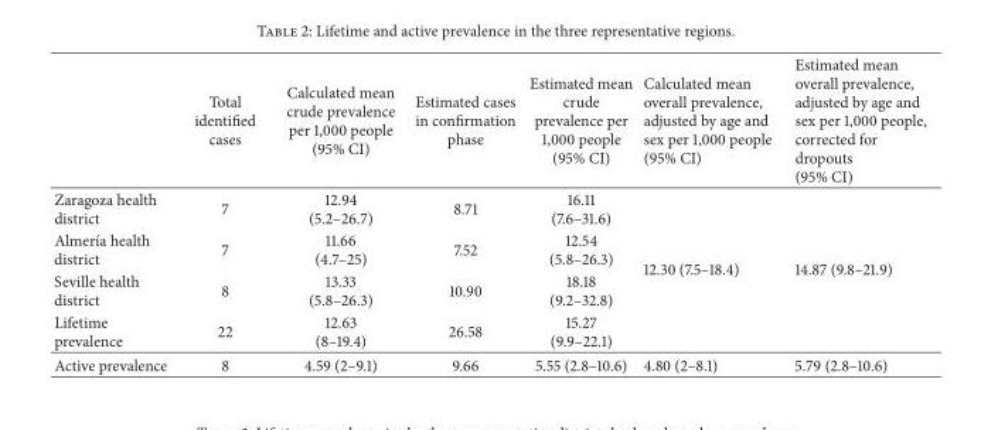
<table><thead><tr><td></td><td>Total identified cases</td><td>Calculated mean crude prevalence per 1,000 people (95% CI)</td><td>Estimated cases in confirmation phase</td><td>Estimated mean crude prevalence per 1,000 people (95% CI)</td><td>Calculated mean overall prevalence, adjusted by age and sex per 1,000 people (95% CI)</td><td>Estimated mean overall prevalence, adjusted by age and sex per 1,000 people, corrected for dropouts (95% CI)</td></tr></thead><tbody><tr><td>Zaragoza health district</td><td>7</td><td>12.94 (5.2–26.7)</td><td>8.71</td><td>16.11 (7.6–31.6)</td><td rowspan="4">12.30 (7.5–18.4)</td><td rowspan="4">14.87 (9.8–21.9)</td></tr><tr><td>Almer´ıa health district</td><td>7</td><td>11.66 (4.7–25)</td><td>7.52</td><td>12.54 (5.8–26.3)</td></tr><tr><td>Seville health district</td><td>8</td><td>13.33 (5.8–26.3)</td><td>10.90</td><td>18.18 (9.2–32.8)</td></tr><tr><td>Lifetime prevalence</td><td>22</td><td>12.63 (8–19.4)</td><td>26.58</td><td>15.27 (9.9–22.1)</td></tr><tr><td>Active prevalence</td><td>8</td><td>4.59 (2–9.1)</td><td>9.66</td><td>5.55 (2.8–10.6)</td><td>4.80 (2–8.1)</td><td>5.79 (2.8–10.6)</td></tr></tbody></table>